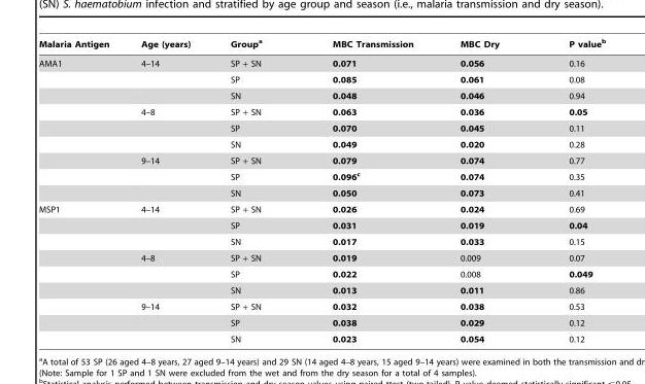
<table><thead><tr><td>Malaria Antigen</td><td>Age (years)</td><td>Group<sup>a</sup></td><td>MBC Transmission</td><td>MBC Dry</td><td>P value<sup>b</sup></td></tr></thead><tbody><tr><td rowspan="9">AMA1</td><td>4–14</td><td>SP + SN</td><td>0.071</td><td>0.056</td><td>0.16</td></tr><tr><td></td><td>SP</td><td>0.085</td><td>0.061</td><td>0.08</td></tr><tr><td></td><td>SN</td><td>0.048</td><td>0.046</td><td>0.94</td></tr><tr><td>4–8</td><td>SP + SN</td><td>0.063</td><td>0.036</td><td>0.05</td></tr><tr><td></td><td>SP</td><td>0.070</td><td>0.045</td><td>0.11</td></tr><tr><td></td><td>SN</td><td>0.049</td><td>0.020</td><td>0.28</td></tr><tr><td>9–14</td><td>SP + SN</td><td>0.079</td><td>0.074</td><td>0.77</td></tr><tr><td></td><td>SP</td><td>0.096c</td><td>0.074</td><td>0.35</td></tr><tr><td></td><td>SN</td><td>0.050</td><td>0.073</td><td>0.41</td></tr><tr><td rowspan="9">MSP1</td><td>4–14</td><td>SP + SN</td><td>0.026</td><td>0.024</td><td>0.69</td></tr><tr><td></td><td>SP</td><td>0.031</td><td>0.019</td><td>0.04</td></tr><tr><td></td><td>SN</td><td>0.017</td><td>0.033</td><td>0.15</td></tr><tr><td>4–8</td><td>SP + SN</td><td>0.019</td><td>0.009</td><td>0.07</td></tr><tr><td></td><td>SP</td><td>0.022</td><td>0.008</td><td>0.049</td></tr><tr><td></td><td>SN</td><td>0.013</td><td>0.011</td><td>0.86</td></tr><tr><td>9–14</td><td>SP + SN</td><td>0.032</td><td>0.038</td><td>0.53</td></tr><tr><td></td><td>SP</td><td>0.038</td><td>0.029</td><td>0.12</td></tr><tr><td></td><td>SN</td><td>0.023</td><td>0.054</td><td>0.12</td></tr></tbody></table>